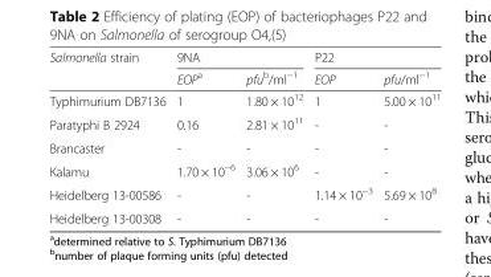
<table><thead><tr><td rowspan="2">Salmonella strain</td><td colspan="2">9NA</td><td colspan="2">P22</td></tr><tr><td>EOP<sup>a</sup></td><td>pfu<sup>b</sup>/ml<sup>−1</sup></td><td>EOP</td><td>pfu/ml<sup>−1</sup></td></tr></thead><tbody><tr><td>Typhimurium DB7136</td><td>1</td><td>1.80 × 10<sup>12</sup></td><td>1</td><td>5.00 × 10<sup>11</sup></td></tr><tr><td>Paratyphi B 2924</td><td>0.16</td><td>2.81 × 10<sup>11</sup></td><td>-</td><td>-</td></tr><tr><td>Brancaster</td><td>-</td><td>-</td><td>-</td><td>-</td></tr><tr><td>Kalamu</td><td>1.70 × 10<sup>−6</sup></td><td>3.06 × 10<sup>6</sup></td><td>-</td><td>-</td></tr><tr><td>Heidelberg 13-00586</td><td>-</td><td>-</td><td>1.14 × 10<sup>−3</sup></td><td>5.69 × 10<sup>8</sup></td></tr><tr><td>Heidelberg 13-00308</td><td>-</td><td>-</td><td>-</td><td>-</td></tr></tbody></table>